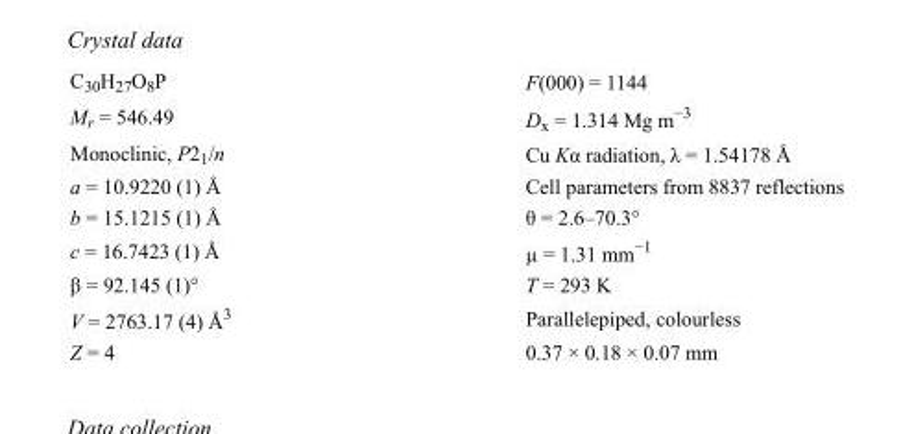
<table><tbody><tr><td>C<sub>30</sub>H<sub>27</sub>O<sub>8</sub>P</td><td>F(000) = 1144</td></tr><tr><td>M<sub>r</sub> = 546.49</td><td>D<sub>x</sub> = 1.314 Mg m<sup>−3</sup></td></tr><tr><td>Monoclinic, P2<sub>1</sub>/n</td><td>Cu Kα radiation, λ = 1.54178 Å</td></tr><tr><td>a = 10.9220 (1) Å</td><td>Cell parameters from 8837 reflections</td></tr><tr><td>b = 15.1215 (1) Å</td><td>θ = 2.6–70.3°</td></tr><tr><td>c = 16.7423 (1) Å</td><td>µ = 1.31 mm<sup>−1</sup></td></tr><tr><td>β = 92.145 (1)°</td><td>T = 293 K</td></tr><tr><td>V = 2763.17 (4) Å<sup>3</sup></td><td>Parallelepiped, colourless</td></tr><tr><td>Z = 4</td><td>0.37 × 0.18 × 0.07 mm</td></tr></tbody></table>